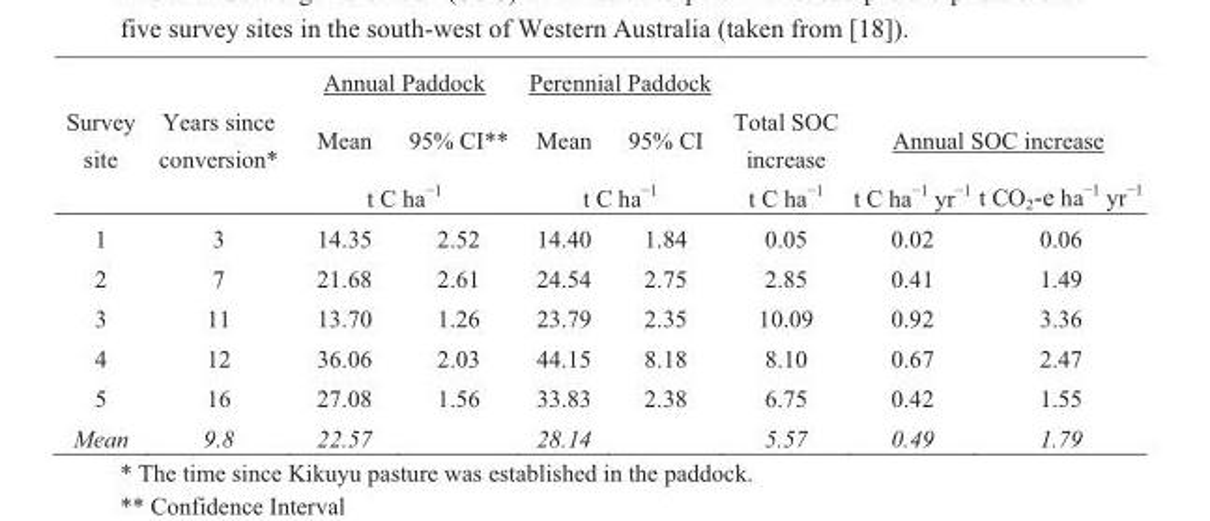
<table><thead><tr><td rowspan="3">Survey site</td><td rowspan="3">Years since conversion*</td><td colspan="2">Annual Paddock</td><td colspan="2">Perennial Paddock</td><td rowspan="3">Total SOC increase t C ha<sup>−1</sup></td><td></td><td></td></tr><tr><td>Mean</td><td>95% CI**</td><td>Mean</td><td>95% CI</td><td colspan="2">Annual SOC increase</td></tr><tr><td colspan="2">t C ha<sup>−1</sup></td><td colspan="2">t C ha<sup>−1</sup></td><td>t C ha<sup>−1</sup> yr<sup>−1</sup></td><td>t CO<sub>2</sub>-e ha<sup>−1</sup> yr<sup>−1</sup></td></tr></thead><tbody><tr><td>1</td><td>3</td><td>14.35</td><td>2.52</td><td>14.40</td><td>1.84</td><td>0.05</td><td>0.02</td><td>0.06</td></tr><tr><td>2</td><td>7</td><td>21.68</td><td>2.61</td><td>24.54</td><td>2.75</td><td>2.85</td><td>0.41</td><td>1.49</td></tr><tr><td>3</td><td>11</td><td>13.70</td><td>1.26</td><td>23.79</td><td>2.35</td><td>10.09</td><td>0.92</td><td>3.36</td></tr><tr><td>4</td><td>12</td><td>36.06</td><td>2.03</td><td>44.15</td><td>8.18</td><td>8.10</td><td>0.67</td><td>2.47</td></tr><tr><td>5</td><td>16</td><td>27.08</td><td>1.56</td><td>33.83</td><td>2.38</td><td>6.75</td><td>0.42</td><td>1.55</td></tr><tr><td>Mean</td><td>9.8</td><td>22.57</td><td></td><td>28.14</td><td></td><td>5.57</td><td>0.49</td><td>1.79</td></tr></tbody></table>